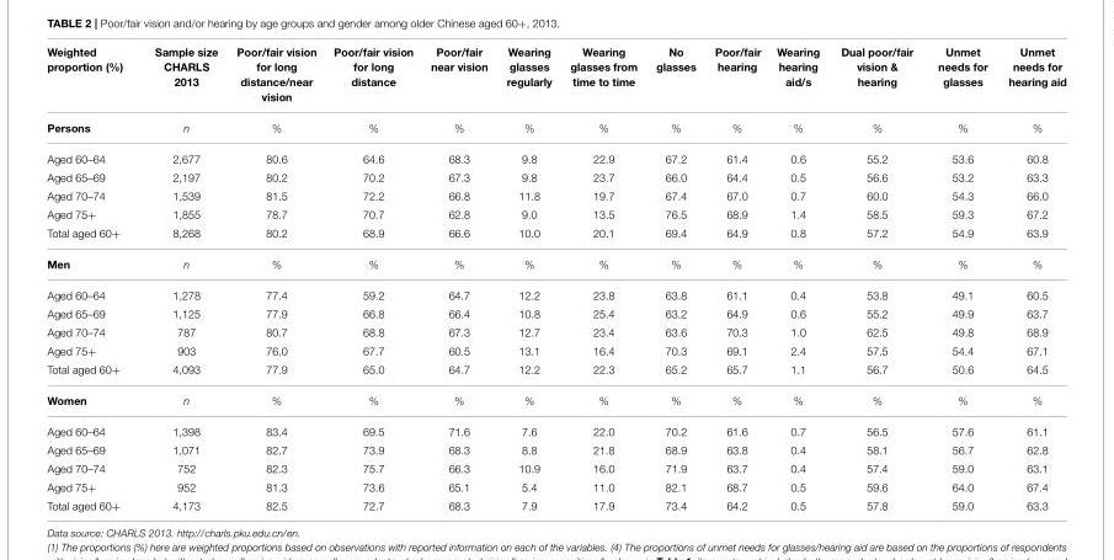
<table><thead><tr><td>Weighted proportion (%)</td><td>Sample size CHARLS 2013</td><td>Poor/fair vision for long distance/near vision</td><td>Poor/fair vision for long distance</td><td>Poor/fair near vision</td><td>Wearing glasses regularly</td><td>Wearing glasses from time to time</td><td>No glasses</td><td>Poor/fair hearing</td><td>Wearing hearing aid/s</td><td>Dual poor/fair vision &amp; hearing</td><td>Unmet needs for glasses</td><td>Unmet needs for hearing aid</td></tr></thead><tbody><tr><td>Persons</td><td>n</td><td>%</td><td>%</td><td>%</td><td>%</td><td>%</td><td>%</td><td>%</td><td>%</td><td>%</td><td>%</td><td>%</td></tr><tr><td>Aged 60–64</td><td>2,677</td><td>80.6</td><td>64.6</td><td>68.3</td><td>9.8</td><td>22.9</td><td>67.2</td><td>61.4</td><td>0.6</td><td>55.2</td><td>53.6</td><td>60.8</td></tr><tr><td>Aged 65–69</td><td>2,197</td><td>80.2</td><td>70.2</td><td>67.3</td><td>9.8</td><td>23.7</td><td>66.0</td><td>64.4</td><td>0.5</td><td>56.6</td><td>53.2</td><td>63.3</td></tr><tr><td>Aged 70–74</td><td>1,539</td><td>81.5</td><td>72.2</td><td>66.8</td><td>11.8</td><td>19.7</td><td>67.4</td><td>67.0</td><td>0.7</td><td>60.0</td><td>54.3</td><td>66.0</td></tr><tr><td>Aged 75+</td><td>1,855</td><td>78.7</td><td>70.7</td><td>62.8</td><td>9.0</td><td>13.5</td><td>76.5</td><td>68.9</td><td>1.4</td><td>58.5</td><td>59.3</td><td>67.2</td></tr><tr><td>Total aged 60+</td><td>8,268</td><td>80.2</td><td>68.9</td><td>66.6</td><td>10.0</td><td>20.1</td><td>69.4</td><td>64.9</td><td>0.8</td><td>57.2</td><td>54.9</td><td>63.9</td></tr><tr><td>Men</td><td>n</td><td>%</td><td>%</td><td>%</td><td>%</td><td>%</td><td>%</td><td>%</td><td>%</td><td>%</td><td>%</td><td>%</td></tr><tr><td>Aged 60–64</td><td>1,278</td><td>77.4</td><td>59.2</td><td>64.7</td><td>12.2</td><td>23.8</td><td>63.8</td><td>61.1</td><td>0.4</td><td>53.8</td><td>49.1</td><td>60.5</td></tr><tr><td>Aged 65–69</td><td>1,125</td><td>77.9</td><td>66.8</td><td>66.4</td><td>10.8</td><td>25.4</td><td>63.2</td><td>64.9</td><td>0.6</td><td>55.2</td><td>49.9</td><td>63.7</td></tr><tr><td>Aged 70–74</td><td>787</td><td>80.7</td><td>68.8</td><td>67.3</td><td>12.7</td><td>23.4</td><td>63.6</td><td>70.3</td><td>1.0</td><td>62.5</td><td>49.8</td><td>68.9</td></tr><tr><td>Aged 75+</td><td>903</td><td>76.0</td><td>67.7</td><td>60.5</td><td>13.1</td><td>16.4</td><td>70.3</td><td>69.1</td><td>2.4</td><td>57.5</td><td>54.4</td><td>67.1</td></tr><tr><td>Total aged 60+</td><td>4,093</td><td>77.9</td><td>65.0</td><td>64.7</td><td>12.2</td><td>22.3</td><td>65.2</td><td>65.7</td><td>1.1</td><td>56.7</td><td>50.6</td><td>64.5</td></tr><tr><td>Women</td><td>n</td><td>%</td><td>%</td><td>%</td><td>%</td><td>%</td><td>%</td><td>%</td><td>%</td><td>%</td><td>%</td><td>%</td></tr><tr><td>Aged 60–64</td><td>1,398</td><td>83.4</td><td>69.5</td><td>71.6</td><td>7.6</td><td>22.0</td><td>70.2</td><td>61.6</td><td>0.7</td><td>56.5</td><td>57.6</td><td>61.1</td></tr><tr><td>Aged 65–69</td><td>1,071</td><td>82.7</td><td>73.9</td><td>68.3</td><td>8.8</td><td>21.8</td><td>68.9</td><td>63.8</td><td>0.4</td><td>58.1</td><td>56.7</td><td>62.8</td></tr><tr><td>Aged 70–74</td><td>752</td><td>82.3</td><td>75.7</td><td>66.3</td><td>10.9</td><td>16.0</td><td>71.9</td><td>63.7</td><td>0.4</td><td>57.4</td><td>59.0</td><td>63.1</td></tr><tr><td>Aged 75+</td><td>952</td><td>81.3</td><td>73.6</td><td>65.1</td><td>5.4</td><td>11.0</td><td>82.1</td><td>68.7</td><td>0.5</td><td>59.6</td><td>64.0</td><td>67.4</td></tr><tr><td>Total aged 60+</td><td>4,173</td><td>82.5</td><td>72.7</td><td>68.3</td><td>7.9</td><td>17.9</td><td>73.4</td><td>64.2</td><td>0.5</td><td>57.8</td><td>59.0</td><td>63.3</td></tr></tbody></table>